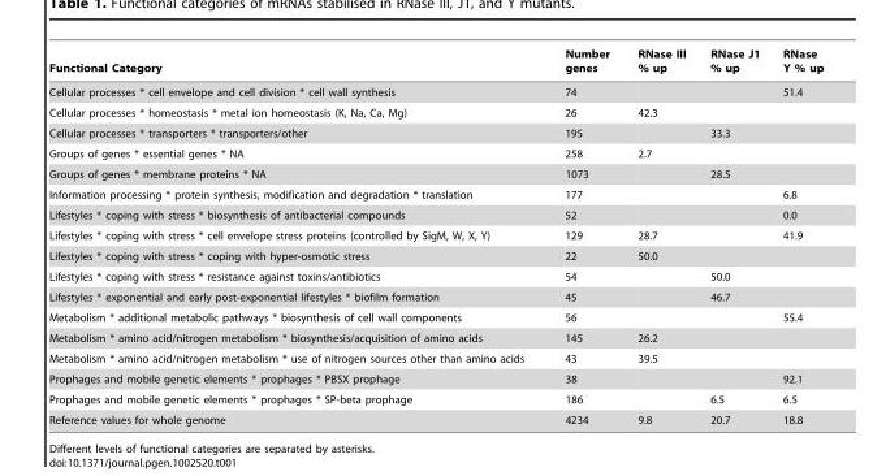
<table><thead><tr><td>Functional Category</td><td>Number genes</td><td>RNase III % up</td><td>RNase J1 % up</td><td>RNase Y % up</td></tr></thead><tbody><tr><td>Cellular processes * cell envelope and cell division * cell wall synthesis</td><td>74</td><td></td><td></td><td>51.4</td></tr><tr><td>Cellular processes * homeostasis * metal ion homeostasis (K, Na, Ca, Mg)</td><td>26</td><td>42.3</td><td></td><td></td></tr><tr><td>Cellular processes * transporters * transporters/other</td><td>195</td><td></td><td>33.3</td><td></td></tr><tr><td>Groups of genes * essential genes * NA</td><td>258</td><td>2.7</td><td></td><td></td></tr><tr><td>Groups of genes * membrane proteins * NA</td><td>1073</td><td></td><td>28.5</td><td></td></tr><tr><td>Information processing * protein synthesis, modification and degradation * translation</td><td>177</td><td></td><td></td><td>6.8</td></tr><tr><td>Lifestyles * coping with stress * biosynthesis of antibacterial compounds</td><td>52</td><td></td><td></td><td>0.0</td></tr><tr><td>Lifestyles * coping with stress * cell envelope stress proteins (controlled by SigM, W, X, Y)</td><td>129</td><td>28.7</td><td></td><td>41.9</td></tr><tr><td>Lifestyles * coping with stress * coping with hyper-osmotic stress</td><td>22</td><td>50.0</td><td></td><td></td></tr><tr><td>Lifestyles * coping with stress * resistance against toxins/antibiotics</td><td>54</td><td></td><td>50.0</td><td></td></tr><tr><td>Lifestyles * exponential and early post-exponential lifestyles * biofilm formation</td><td>45</td><td></td><td>46.7</td><td></td></tr><tr><td>Metabolism * additional metabolic pathways * biosynthesis of cell wall components</td><td>56</td><td></td><td></td><td>55.4</td></tr><tr><td>Metabolism * amino acid/nitrogen metabolism * biosynthesis/acquisition of amino acids</td><td>145</td><td>26.2</td><td></td><td></td></tr><tr><td>Metabolism * amino acid/nitrogen metabolism * use of nitrogen sources other than amino acids</td><td>43</td><td>39.5</td><td></td><td></td></tr><tr><td>Prophages and mobile genetic elements * prophages * PBSX prophage</td><td>38</td><td></td><td></td><td>92.1</td></tr><tr><td>Prophages and mobile genetic elements * prophages * SP-beta prophage</td><td>186</td><td></td><td>6.5</td><td>6.5</td></tr><tr><td>Reference values for whole genome</td><td>4234</td><td>9.8</td><td>20.7</td><td>18.8</td></tr></tbody></table>